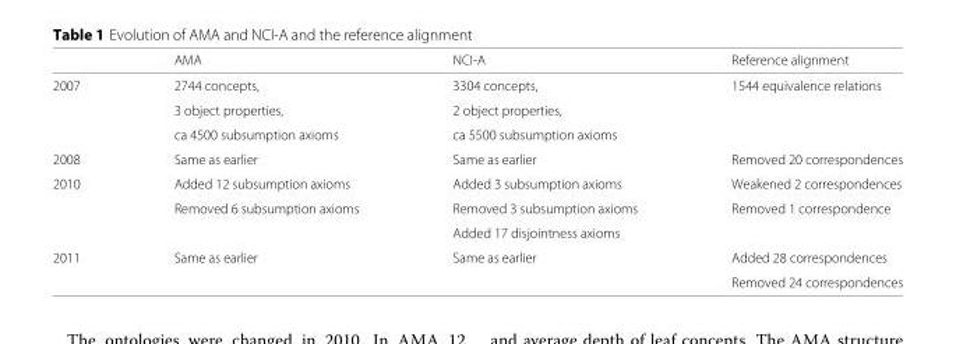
<table><thead><tr><td></td><td>AMA</td><td>NCI-A</td><td>Reference alignment</td></tr></thead><tbody><tr><td rowspan="3">2007</td><td>2744 concepts,</td><td>3304 concepts,</td><td>1544 equivalence relations</td></tr><tr><td>3 object properties,</td><td>2 object properties,</td><td></td></tr><tr><td>ca 4500 subsumption axioms</td><td>ca 5500 subsumption axioms</td><td></td></tr><tr><td>2008</td><td>Same as earlier</td><td>Same as earlier</td><td>Removed 20 correspondences</td></tr><tr><td rowspan="3">2010</td><td>Added 12 subsumption axioms</td><td>Added 3 subsumption axioms</td><td>Weakened 2 correspondences</td></tr><tr><td>Removed 6 subsumption axioms</td><td>Removed 3 subsumption axioms</td><td>Removed 1 correspondence</td></tr><tr><td></td><td>Added 17 disjointness axioms</td><td></td></tr><tr><td rowspan="2">2011</td><td>Same as earlier</td><td>Same as earlier</td><td>Added 28 correspondences</td></tr><tr><td></td><td></td><td>Removed 24 correspondences</td></tr></tbody></table>